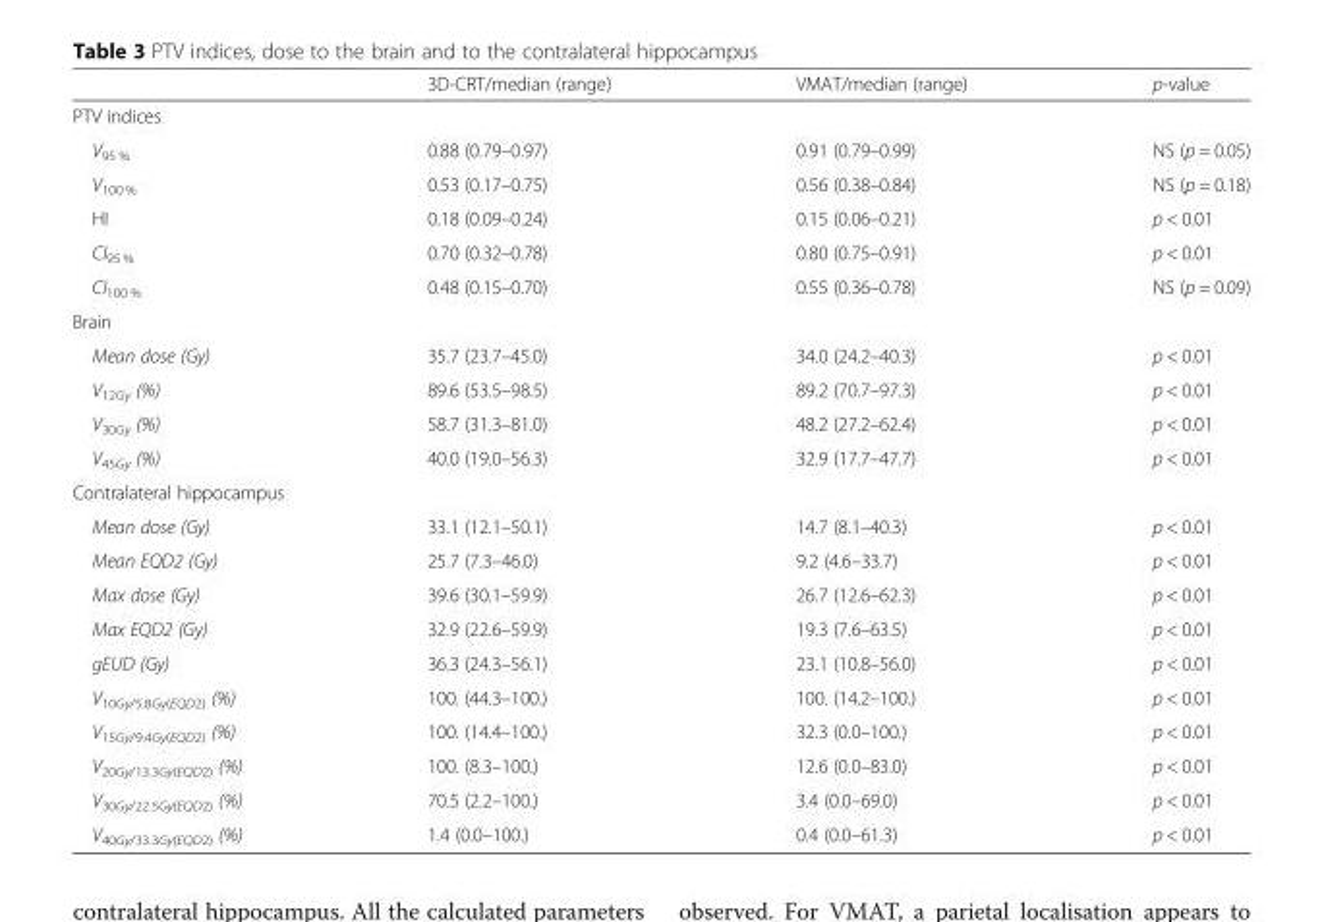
<table><thead><tr><td></td><td>3D-CRT/median (range)</td><td>VMAT/median (range)</td><td>p-value</td></tr></thead><tbody><tr><td colspan="4">PTV indices</td></tr><tr><td>V<sub>95 %</sub></td><td>0.88 (0.79–0.97)</td><td>0.91 (0.79–0.99)</td><td>NS (p = 0.05)</td></tr><tr><td>V<sub>100 %</sub></td><td>0.53 (0.17–0.75)</td><td>0.56 (0.38–0.84)</td><td>NS (p = 0.18)</td></tr><tr><td>HI</td><td>0.18 (0.09–0.24)</td><td>0.15 (0.06–0.21)</td><td>p &lt; 0.01</td></tr><tr><td>CI<sub>95 %</sub></td><td>0.70 (0.32–0.78)</td><td>0.80 (0.75–0.91)</td><td>p &lt; 0.01</td></tr><tr><td>CI<sub>100 %</sub></td><td>0.48 (0.15–0.70)</td><td>0.55 (0.36–0.78)</td><td>NS (p = 0.09)</td></tr><tr><td colspan="4">Brain</td></tr><tr><td>Mean dose (Gy)</td><td>35.7 (23.7–45.0)</td><td>34.0 (24.2–40.3)</td><td>p &lt; 0.01</td></tr><tr><td>V<sub>12Gy</sub> (%)</td><td>89.6 (53.5–98.5)</td><td>89.2 (70.7–97.3)</td><td>p &lt; 0.01</td></tr><tr><td>V<sub>30Gy</sub> (%)</td><td>58.7 (31.3–81.0)</td><td>48.2 (27.2–62.4)</td><td>p &lt; 0.01</td></tr><tr><td>V<sub>45Gy</sub> (%)</td><td>40.0 (19.0–56.3)</td><td>32.9 (17.7–47.7)</td><td>p &lt; 0.01</td></tr><tr><td colspan="4">Contralateral hippocampus</td></tr><tr><td>Mean dose (Gy)</td><td>33.1 (12.1–50.1)</td><td>14.7 (8.1–40.3)</td><td>p &lt; 0.01</td></tr><tr><td>Mean EQD2 (Gy)</td><td>25.7 (7.3–46.0)</td><td>9.2 (4.6–33.7)</td><td>p &lt; 0.01</td></tr><tr><td>Max dose (Gy)</td><td>39.6 (30.1–59.9)</td><td>26.7 (12.6–62.3)</td><td>p &lt; 0.01</td></tr><tr><td>Max EQD2 (Gy)</td><td>32.9 (22.6–59.9)</td><td>19.3 (7.6–63.5)</td><td>p &lt; 0.01</td></tr><tr><td>gEUD (Gy)</td><td>36.3 (24.3–56.1)</td><td>23.1 (10.8–56.0)</td><td>p &lt; 0.01</td></tr><tr><td>V<sub>10Gy/5.8Gy(EQD2)</sub> (%)</td><td>100. (44.3–100.)</td><td>100. (14.2–100.)</td><td>p &lt; 0.01</td></tr><tr><td>V<sub>15Gy/9.4Gy(EQD2)</sub> (%)</td><td>100. (14.4–100.)</td><td>32.3 (0.0–100.)</td><td>p &lt; 0.01</td></tr><tr><td>V<sub>20Gy/13.3Gy(EQD2)</sub> (%)</td><td>100. (8.3–100.)</td><td>12.6 (0.0–83.0)</td><td>p &lt; 0.01</td></tr><tr><td>V<sub>30Gy/22.5Gy(EQD2)</sub> (%)</td><td>70.5 (2.2–100.)</td><td>3.4 (0.0–69.0)</td><td>p &lt; 0.01</td></tr><tr><td>V<sub>40Gy/33.3Gy(EQD2)</sub> (%)</td><td>1.4 (0.0–100.)</td><td>0.4 (0.0–61.3)</td><td>p &lt; 0.01</td></tr></tbody></table>